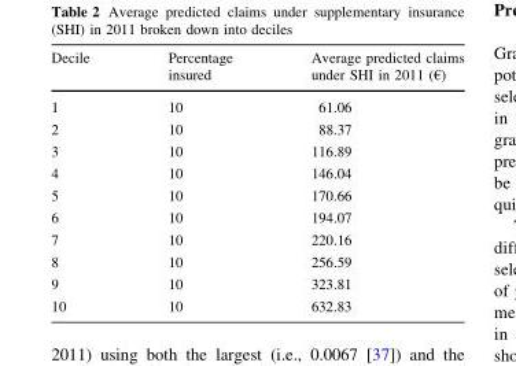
<table><thead><tr><td>Decile</td><td>Percentage insured</td><td>Average predicted claims under SHI in 2011 (€)</td></tr></thead><tbody><tr><td>1</td><td>10</td><td>61.06</td></tr><tr><td>2</td><td>10</td><td>88.37</td></tr><tr><td>3</td><td>10</td><td>116.89</td></tr><tr><td>4</td><td>10</td><td>146.04</td></tr><tr><td>5</td><td>10</td><td>170.66</td></tr><tr><td>6</td><td>10</td><td>194.07</td></tr><tr><td>7</td><td>10</td><td>220.16</td></tr><tr><td>8</td><td>10</td><td>256.59</td></tr><tr><td>9</td><td>10</td><td>323.81</td></tr><tr><td>10</td><td>10</td><td>632.83</td></tr></tbody></table>